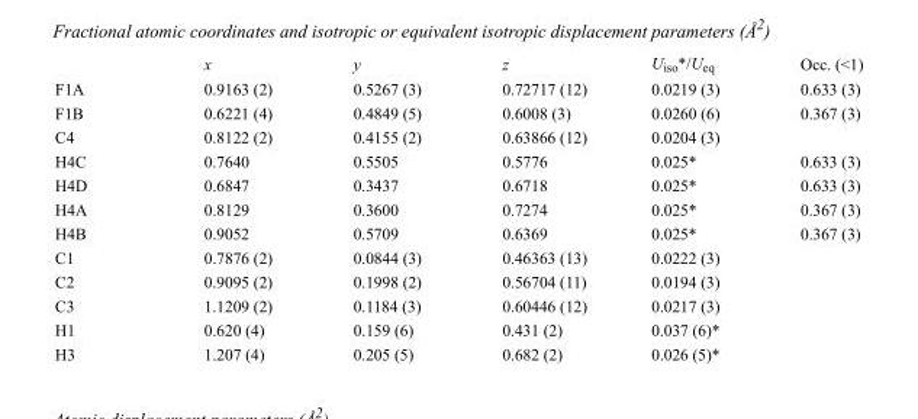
<table><thead><tr><td></td><td>x</td><td>y</td><td>z</td><td>U<sub>iso</sub>*/U<sub>eq</sub></td><td>Occ. (&lt;1)</td></tr></thead><tbody><tr><td>F1A</td><td>0.9163 (2)</td><td>0.5267 (3)</td><td>0.72717 (12)</td><td>0.0219 (3)</td><td>0.633 (3)</td></tr><tr><td>F1B</td><td>0.6221 (4)</td><td>0.4849 (5)</td><td>0.6008 (3)</td><td>0.0260 (6)</td><td>0.367 (3)</td></tr><tr><td>C4</td><td>0.8122 (2)</td><td>0.4155 (2)</td><td>0.63866 (12)</td><td>0.0204 (3)</td><td></td></tr><tr><td>H4C</td><td>0.7640</td><td>0.5505</td><td>0.5776</td><td>0.025*</td><td>0.633 (3)</td></tr><tr><td>H4D</td><td>0.6847</td><td>0.3437</td><td>0.6718</td><td>0.025*</td><td>0.633 (3)</td></tr><tr><td>H4A</td><td>0.8129</td><td>0.3600</td><td>0.7274</td><td>0.025*</td><td>0.367 (3)</td></tr><tr><td>H4B</td><td>0.9052</td><td>0.5709</td><td>0.6369</td><td>0.025*</td><td>0.367 (3)</td></tr><tr><td>C1</td><td>0.7876 (2)</td><td>0.0844 (3)</td><td>0.46363 (13)</td><td>0.0222 (3)</td><td></td></tr><tr><td>C2</td><td>0.9095 (2)</td><td>0.1998 (2)</td><td>0.56704 (11)</td><td>0.0194 (3)</td><td></td></tr><tr><td>C3</td><td>1.1209 (2)</td><td>0.1184 (3)</td><td>0.60446 (12)</td><td>0.0217 (3)</td><td></td></tr><tr><td>H1</td><td>0.620 (4)</td><td>0.159 (6)</td><td>0.431 (2)</td><td>0.037 (6)*</td><td></td></tr><tr><td>H3</td><td>1.207 (4)</td><td>0.205 (5)</td><td>0.682 (2)</td><td>0.026 (5)*</td><td></td></tr></tbody></table>